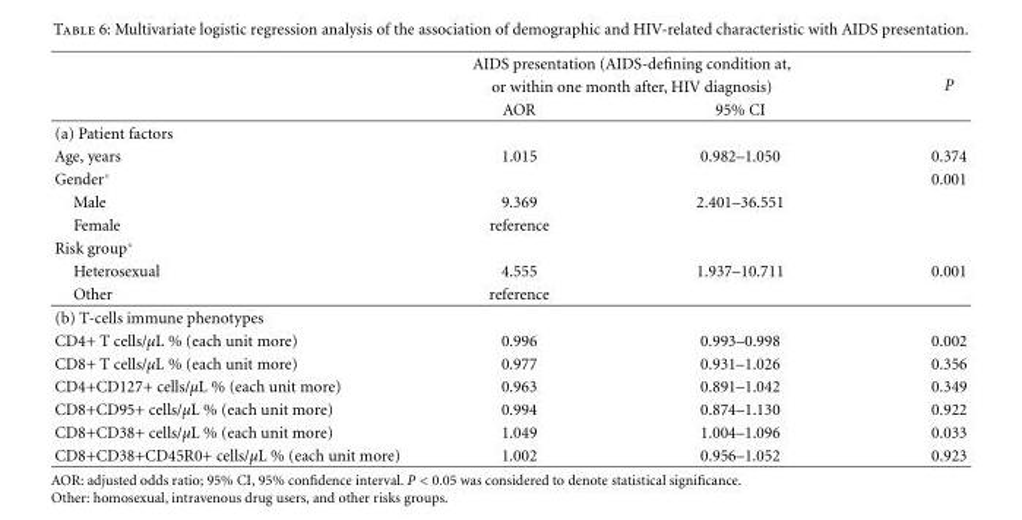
<table><thead><tr><td rowspan="3"></td><td rowspan="2" colspan="2">AIDS presentation (AIDS-defining condition at, or within one month after, HIV diagnosis)</td><td rowspan="3">P</td></tr><tr></tr><tr><td>AOR</td><td>95% CI</td></tr></thead><tbody><tr><td colspan="4">(a) Patient factors</td></tr><tr><td>Age, years</td><td>1.015</td><td>0.982–1.050</td><td>0.374</td></tr><tr><td>Gender◦</td><td></td><td></td><td>0.001</td></tr><tr><td>Male</td><td>9.369</td><td>2.401–36.551</td><td></td></tr><tr><td>Female</td><td>reference</td><td></td><td></td></tr><tr><td colspan="4">Risk group◦</td></tr><tr><td>Heterosexual</td><td>4.555</td><td>1.937–10.711</td><td>0.001</td></tr><tr><td>Other</td><td>reference</td><td></td><td></td></tr><tr><td colspan="4">(b) T-cells immune phenotypes</td></tr><tr><td>CD4+ T cells/μL % (each unit more)</td><td>0.996</td><td>0.993–0.998</td><td>0.002</td></tr><tr><td>CD8+ T cells/μL % (each unit more)</td><td>0.977</td><td>0.931–1.026</td><td>0.356</td></tr><tr><td>CD4+CD127+ cells/μL % (each unit more)</td><td>0.963</td><td>0.891–1.042</td><td>0.349</td></tr><tr><td>CD8+CD95+ cells/μL % (each unit more)</td><td>0.994</td><td>0.874–1.130</td><td>0.922</td></tr><tr><td>CD8+CD38+ cells/μL % (each unit more)</td><td>1.049</td><td>1.004–1.096</td><td>0.033</td></tr><tr><td>CD8+CD38+CD45R0+ cells/μL % (each unit more)</td><td>1.002</td><td>0.956–1.052</td><td>0.923</td></tr></tbody></table>